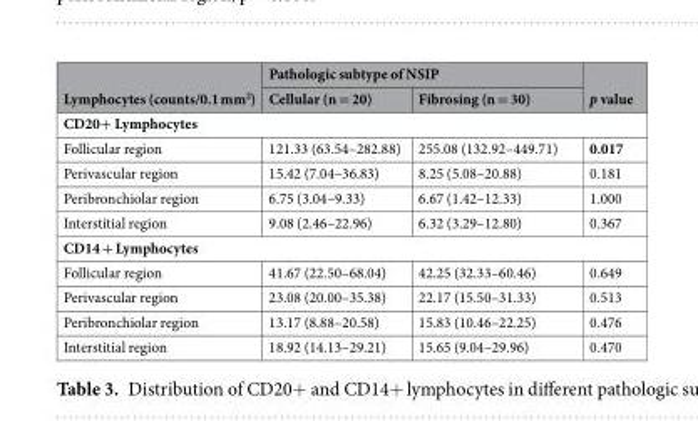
<table><thead><tr><td rowspan="2">Lymphocytes (counts/0.1 mm<sup>2</sup>)</td><td colspan="2">Pathologic subtype of NSIP</td><td rowspan="2">p value</td></tr><tr><td>Cellular (n = 20)</td><td>Fibrosing (n = 30)</td></tr></thead><tbody><tr><td colspan="4">CD20+ Lymphocytes</td></tr><tr><td>Follicular region</td><td>121.33 (63.54–282.88)</td><td>255.08 (132.92–449.71)</td><td>0.017</td></tr><tr><td>Perivascular region</td><td>15.42 (7.04–36.83)</td><td>8.25 (5.08–20.88)</td><td>0.181</td></tr><tr><td>Peribronchiolar region</td><td>6.75 (3.04–9.33)</td><td>6.67 (1.42–12.33)</td><td>1.000</td></tr><tr><td>Interstitial region</td><td>9.08 (2.46–22.96)</td><td>6.32 (3.29–12.80)</td><td>0.367</td></tr><tr><td colspan="4">CD14 + Lymphocytes</td></tr><tr><td>Follicular region</td><td>41.67 (22.50–68.04)</td><td>42.25 (32.33–60.46)</td><td>0.649</td></tr><tr><td>Perivascular region</td><td>23.08 (20.00–35.38)</td><td>22.17 (15.50–31.33)</td><td>0.513</td></tr><tr><td>Peribronchiolar region</td><td>13.17 (8.88–20.58)</td><td>15.83 (10.46–22.25)</td><td>0.476</td></tr><tr><td>Interstitial region</td><td>18.92 (14.13–29.21)</td><td>15.65 (9.04–29.96)</td><td>0.470</td></tr></tbody></table>